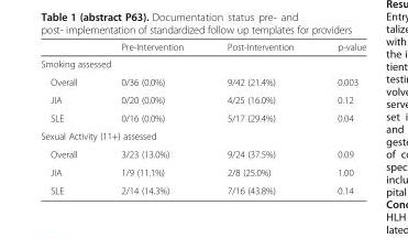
<table><thead><tr><td></td><td>Pre-Intervention</td><td>Post-Intervention</td><td>p-value</td></tr></thead><tbody><tr><td colspan="4">Smoking assessed</td></tr><tr><td>Overall</td><td>0/36 (0.0%)</td><td>9/42 (21.4%)</td><td>0.003</td></tr><tr><td>JIA</td><td>0/20 (0.0%)</td><td>4/25 (16.0%)</td><td>0.12</td></tr><tr><td>SLE</td><td>0/16 (0.0%)</td><td>5/17 (29.4%)</td><td>0.04</td></tr><tr><td colspan="4">Sexual Activity (11+) assessed</td></tr><tr><td>Overall</td><td>3/23 (13.0%)</td><td>9/24 (37.5%)</td><td>0.09</td></tr><tr><td>JIA</td><td>1/9 (11.1%)</td><td>2/8 (25.0%)</td><td>1.00</td></tr><tr><td>SLE</td><td>2/14 (14.3%)</td><td>7/16 (43.8%)</td><td>0.14</td></tr></tbody></table>